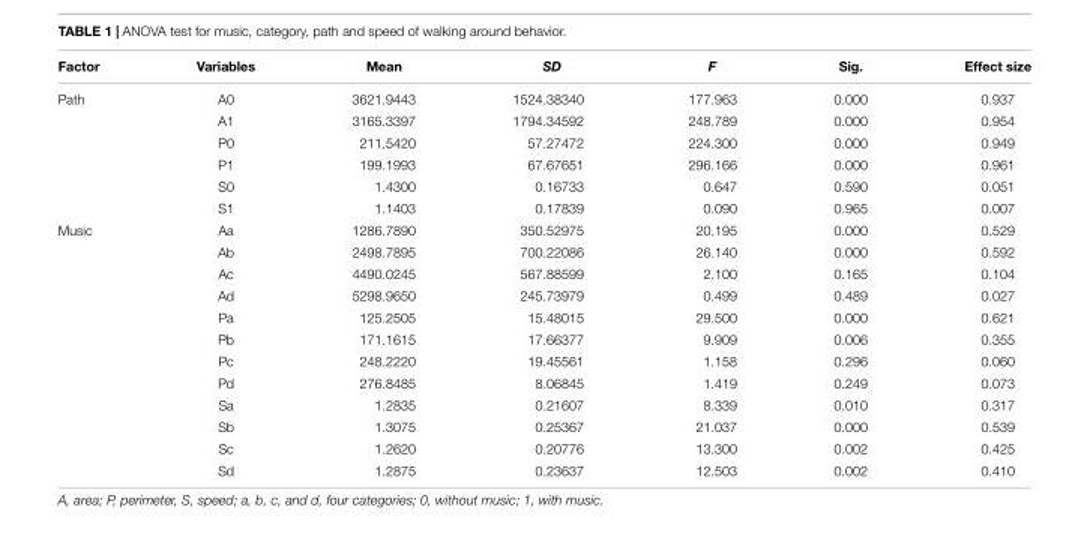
<table><thead><tr><td>Factor</td><td>Variables</td><td>Mean</td><td>SD</td><td>F</td><td>Sig.</td><td>Effect size</td></tr></thead><tbody><tr><td rowspan="6">Path</td><td>A0</td><td>3621.9443</td><td>1524.38340</td><td>177.963</td><td>0.000</td><td>0.937</td></tr><tr><td>A1</td><td>3165.3397</td><td>1794.34592</td><td>248.789</td><td>0.000</td><td>0.954</td></tr><tr><td>P0</td><td>211.5420</td><td>57.27472</td><td>224.300</td><td>0.000</td><td>0.949</td></tr><tr><td>P1</td><td>199.1993</td><td>67.67651</td><td>296.166</td><td>0.000</td><td>0.961</td></tr><tr><td>S0</td><td>1.4300</td><td>0.16733</td><td>0.647</td><td>0.590</td><td>0.051</td></tr><tr><td>S1</td><td>1.1403</td><td>0.17839</td><td>0.090</td><td>0.965</td><td>0.007</td></tr><tr><td rowspan="12">Music</td><td>Aa</td><td>1286.7890</td><td>350.52975</td><td>20.195</td><td>0.000</td><td>0.529</td></tr><tr><td>Ab</td><td>2498.7895</td><td>700.22086</td><td>26.140</td><td>0.000</td><td>0.592</td></tr><tr><td>Ac</td><td>4490.0245</td><td>567.88599</td><td>2.100</td><td>0.165</td><td>0.104</td></tr><tr><td>Ad</td><td>5298.9650</td><td>245.73979</td><td>0.499</td><td>0.489</td><td>0.027</td></tr><tr><td>Pa</td><td>125.2505</td><td>15.48015</td><td>29.500</td><td>0.000</td><td>0.621</td></tr><tr><td>Pb</td><td>171.1615</td><td>17.66377</td><td>9.909</td><td>0.006</td><td>0.355</td></tr><tr><td>Pc</td><td>248.2220</td><td>19.45561</td><td>1.158</td><td>0.296</td><td>0.060</td></tr><tr><td>Pd</td><td>276.8485</td><td>8.06845</td><td>1.419</td><td>0.249</td><td>0.073</td></tr><tr><td>Sa</td><td>1.2835</td><td>0.21607</td><td>8.339</td><td>0.010</td><td>0.317</td></tr><tr><td>Sb</td><td>1.3075</td><td>0.25367</td><td>21.037</td><td>0.000</td><td>0.539</td></tr><tr><td>Sc</td><td>1.2620</td><td>0.20776</td><td>13.300</td><td>0.002</td><td>0.425</td></tr><tr><td>Sd</td><td>1.2875</td><td>0.23637</td><td>12.503</td><td>0.002</td><td>0.410</td></tr></tbody></table>